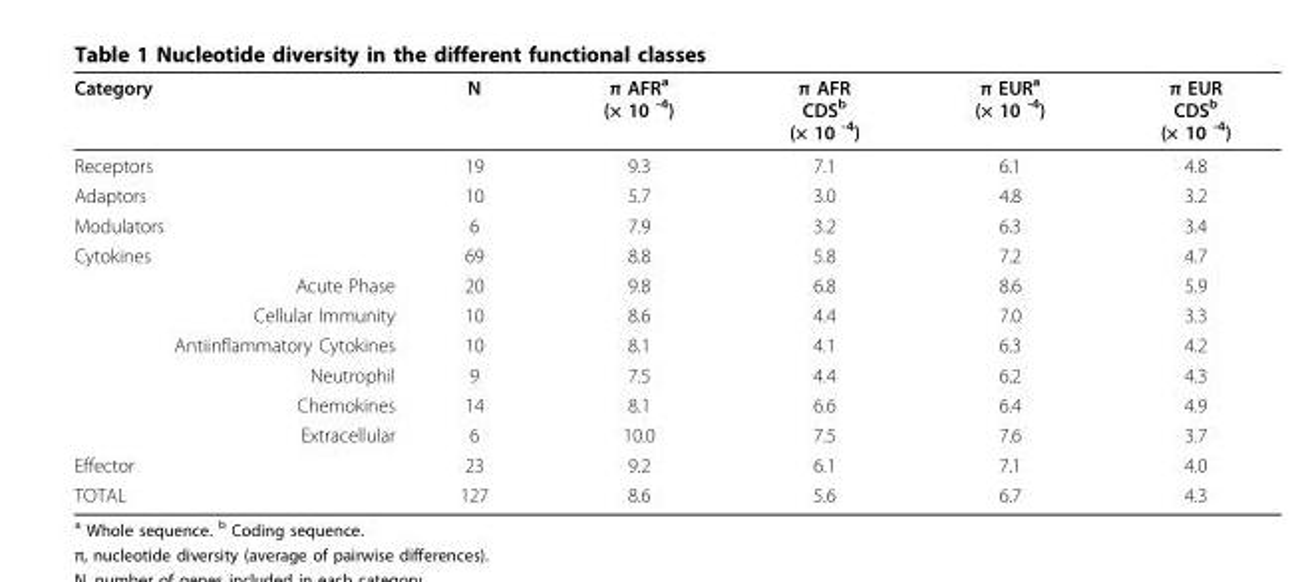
<table><thead><tr><td>Category</td><td>N</td><td>π AFR<sup>a</sup> (× 10 <sup>-4</sup>)</td><td>π AFR CDS<sup>b</sup> (× 10 <sup>-4</sup>)</td><td>π EUR<sup>a</sup> (× 10 <sup>-4</sup>)</td><td>π EUR CDS<sup>b</sup> (× 10 <sup>-4</sup>)</td></tr></thead><tbody><tr><td>Receptors</td><td>19</td><td>9.3</td><td>7.1</td><td>6.1</td><td>4.8</td></tr><tr><td>Adaptors</td><td>10</td><td>5.7</td><td>3.0</td><td>4.8</td><td>3.2</td></tr><tr><td>Modulators</td><td>6</td><td>7.9</td><td>3.2</td><td>6.3</td><td>3.4</td></tr><tr><td>Cytokines</td><td>69</td><td>8.8</td><td>5.8</td><td>7.2</td><td>4.7</td></tr><tr><td>Acute Phase</td><td>20</td><td>9.8</td><td>6.8</td><td>8.6</td><td>5.9</td></tr><tr><td>Cellular Immunity</td><td>10</td><td>8.6</td><td>4.4</td><td>7.0</td><td>3.3</td></tr><tr><td>Antiinflammatory Cytokines</td><td>10</td><td>8.1</td><td>4.1</td><td>6.3</td><td>4.2</td></tr><tr><td>Neutrophil</td><td>9</td><td>7.5</td><td>4.4</td><td>6.2</td><td>4.3</td></tr><tr><td>Chemokines</td><td>14</td><td>8.1</td><td>6.6</td><td>6.4</td><td>4.9</td></tr><tr><td>Extracellular</td><td>6</td><td>10.0</td><td>7.5</td><td>7.6</td><td>3.7</td></tr><tr><td>Effector</td><td>23</td><td>9.2</td><td>6.1</td><td>7.1</td><td>4.0</td></tr><tr><td>TOTAL</td><td>127</td><td>8.6</td><td>5.6</td><td>6.7</td><td>4.3</td></tr></tbody></table>